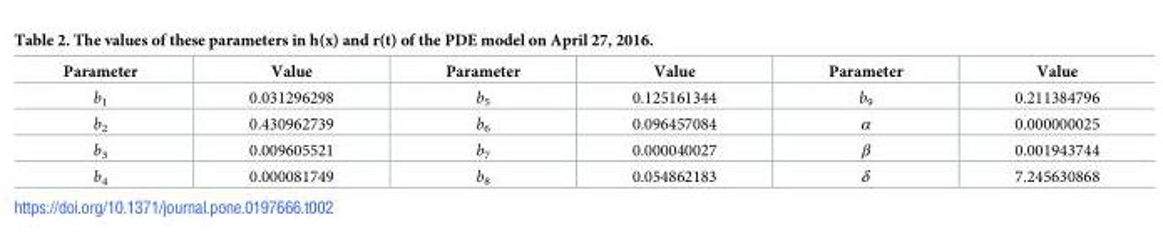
<table><thead><tr><td>Parameter</td><td>Value</td><td>Parameter</td><td>Value</td><td>Parameter</td><td>Value</td></tr></thead><tbody><tr><td>b<sub>1</sub></td><td>0.031296298</td><td>b<sub>5</sub></td><td>0.125161344</td><td>b<sub>9</sub></td><td>0.211384796</td></tr><tr><td>b<sub>2</sub></td><td>0.430962739</td><td>b<sub>6</sub></td><td>0.096457084</td><td>α</td><td>0.000000025</td></tr><tr><td>b<sub>3</sub></td><td>0.009605521</td><td>b<sub>7</sub></td><td>0.000040027</td><td>β</td><td>0.001943744</td></tr><tr><td>b<sub>4</sub></td><td>0.000081749</td><td>b<sub>8</sub></td><td>0.054862183</td><td>δ</td><td>7.245630868</td></tr></tbody></table>